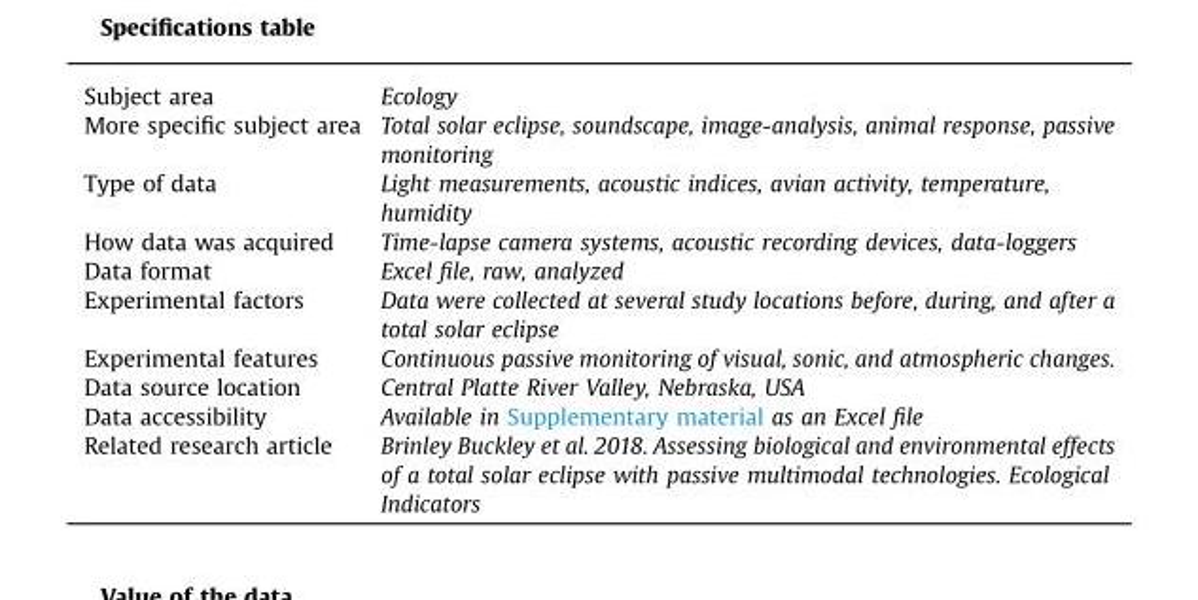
<table><tbody><tr><td>Subject area</td><td>Ecology</td></tr><tr><td>More specific subject area</td><td>Total solar eclipse, soundscape, image-analysis, animal response, passive monitoring</td></tr><tr><td>Type of data</td><td>Light measurements, acoustic indices, avian activity, temperature, humidity</td></tr><tr><td>How data was acquired</td><td>Time-lapse camera systems, acoustic recording devices, data-loggers</td></tr><tr><td>Data format</td><td>Excel file, raw, analyzed</td></tr><tr><td>Experimental factors</td><td>Data were collected at several study locations before, during, and after a total solar eclipse</td></tr><tr><td>Experimental features</td><td>Continuous passive monitoring of visual, sonic, and atmospheric changes.</td></tr><tr><td>Data source location</td><td>Central Platte River Valley, Nebraska, USA</td></tr><tr><td>Data accessibility</td><td>Available in Supplementary material as an Excel file</td></tr><tr><td>Related research article</td><td>Brinley Buckley et al. 2018. Assessing biological and environmental effects of a total solar eclipse with passive multimodal technologies. Ecological Indicators</td></tr></tbody></table>